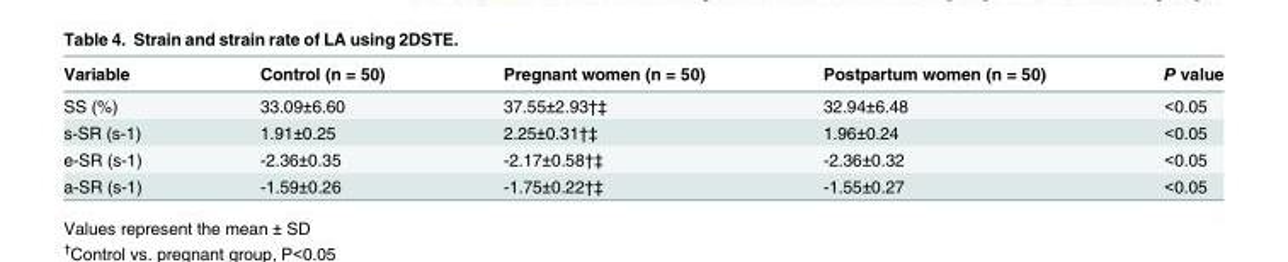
<table><thead><tr><td>Variable</td><td>Control (n = 50)</td><td>Pregnant women (n = 50)</td><td>Postpartum women (n = 50)</td><td>P value</td></tr></thead><tbody><tr><td>SS (%)</td><td>33.09±6.60</td><td>37.55±2.93†‡</td><td>32.94±6.48</td><td>&lt;0.05</td></tr><tr><td>s-SR (s-1)</td><td>1.91±0.25</td><td>2.25±0.31†‡</td><td>1.96±0.24</td><td>&lt;0.05</td></tr><tr><td>e-SR (s-1)</td><td>-2.36±0.35</td><td>-2.17±0.58†‡</td><td>-2.36±0.32</td><td>&lt;0.05</td></tr><tr><td>a-SR (s-1)</td><td>-1.59±0.26</td><td>-1.75±0.22†‡</td><td>-1.55±0.27</td><td>&lt;0.05</td></tr></tbody></table>